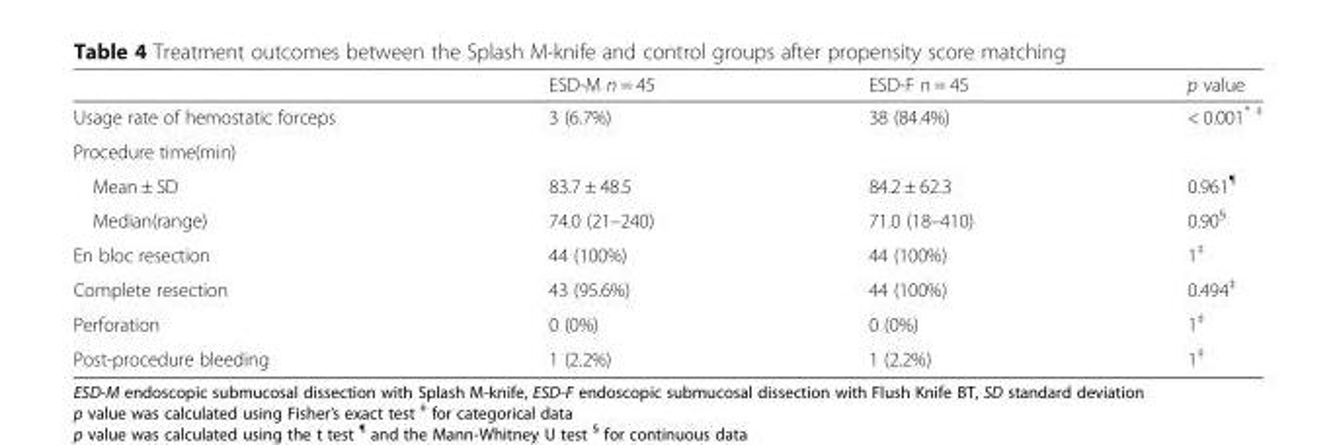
<table><thead><tr><td></td><td>ESD-M n = 45</td><td>ESD-F n = 45</td><td>p value</td></tr></thead><tbody><tr><td>Usage rate of hemostatic forceps</td><td>3 (6.7%)</td><td>38 (84.4%)</td><td>&lt; 0.001<sup>* ‡</sup></td></tr><tr><td colspan="4">Procedure time(min)</td></tr><tr><td>Mean ± SD</td><td>83.7 ± 48.5</td><td>84.2 ± 62.3</td><td>0.961<sup>¶</sup></td></tr><tr><td>Median(range)</td><td>74.0 (21–240)</td><td>71.0 (18–410)</td><td>0.90<sup>§</sup></td></tr><tr><td>En bloc resection</td><td>44 (100%)</td><td>44 (100%)</td><td>1<sup>‡</sup></td></tr><tr><td>Complete resection</td><td>43 (95.6%)</td><td>44 (100%)</td><td>0.494<sup>‡</sup></td></tr><tr><td>Perforation</td><td>0 (0%)</td><td>0 (0%)</td><td>1<sup>‡</sup></td></tr><tr><td>Post-procedure bleeding</td><td>1 (2.2%)</td><td>1 (2.2%)</td><td>1<sup>‡</sup></td></tr></tbody></table>